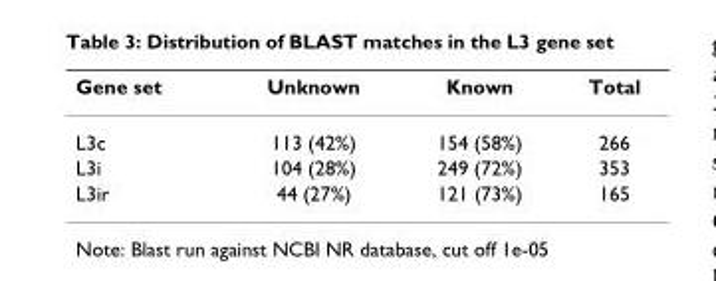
<table><thead><tr><td>Gene set</td><td>Unknown</td><td>Known</td><td>Total</td></tr></thead><tbody><tr><td>L3c</td><td>113 (42%)</td><td>154 (58%)</td><td>266</td></tr><tr><td>L3i</td><td>104 (28%)</td><td>249 (72%)</td><td>353</td></tr><tr><td>L3ir</td><td>44 (27%)</td><td>121 (73%)</td><td>165</td></tr></tbody></table>